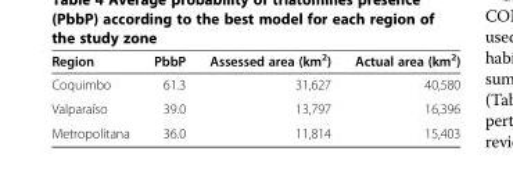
<table><thead><tr><td>Region</td><td>PbbP</td><td>Assessed area (km<sup>2</sup>)</td><td>Actual area (km<sup>2</sup>)</td></tr></thead><tbody><tr><td>Coquimbo</td><td>61.3</td><td>31,627</td><td>40,580</td></tr><tr><td>Valparaíso</td><td>39.0</td><td>13,797</td><td>16,396</td></tr><tr><td>Metropolitana</td><td>36.0</td><td>11,814</td><td>15,403</td></tr></tbody></table>